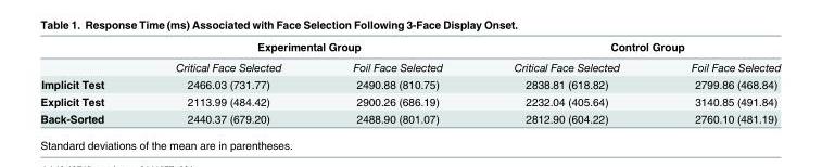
<table><thead><tr><td rowspan="2"></td><td colspan="2">Experimental Group</td><td colspan="2">Control Group</td></tr><tr><td>Critical Face Selected</td><td>Foil Face Selected</td><td>Critical Face Selected</td><td>Foil Face Selected</td></tr></thead><tbody><tr><td>Implicit Test</td><td>2466.03 (731.77)</td><td>2490.88 (810.75)</td><td>2838.81 (618.82)</td><td>2799.86 (468.84)</td></tr><tr><td>Explicit Test</td><td>2113.99 (484.42)</td><td>2900.26 (686.19)</td><td>2232.04 (405.64)</td><td>3140.85 (491.84)</td></tr><tr><td>Back-Sorted</td><td>2440.37 (679.20)</td><td>2488.90 (801.07)</td><td>2812.90 (604.22)</td><td>2760.10 (481.19)</td></tr></tbody></table>